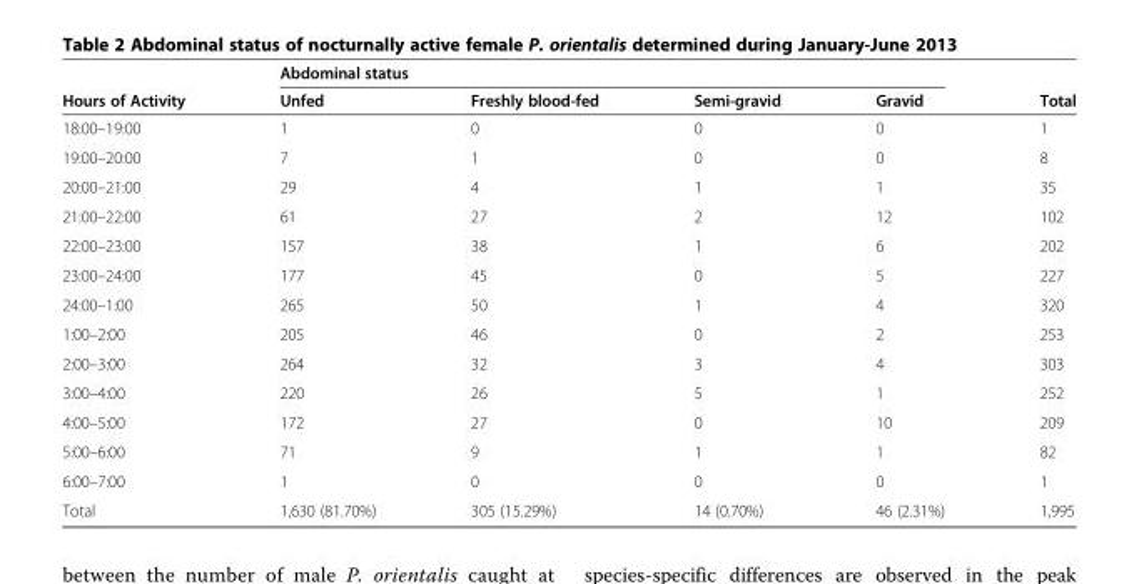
<table><thead><tr><td rowspan="2">Hours of Activity</td><td colspan="4">Abdominal status</td><td rowspan="2">Total</td></tr><tr><td>Unfed</td><td>Freshly blood-fed</td><td>Semi-gravid</td><td>Gravid</td></tr></thead><tbody><tr><td>18:00–19:00</td><td>1</td><td>0</td><td>0</td><td>0</td><td>1</td></tr><tr><td>19:00–20:00</td><td>7</td><td>1</td><td>0</td><td>0</td><td>8</td></tr><tr><td>20:00–21:00</td><td>29</td><td>4</td><td>1</td><td>1</td><td>35</td></tr><tr><td>21:00–22:00</td><td>61</td><td>27</td><td>2</td><td>12</td><td>102</td></tr><tr><td>22:00–23:00</td><td>157</td><td>38</td><td>1</td><td>6</td><td>202</td></tr><tr><td>23:00–24:00</td><td>177</td><td>45</td><td>0</td><td>5</td><td>227</td></tr><tr><td>24:00–1:00</td><td>265</td><td>50</td><td>1</td><td>4</td><td>320</td></tr><tr><td>1:00–2:00</td><td>205</td><td>46</td><td>0</td><td>2</td><td>253</td></tr><tr><td>2:00–3:00</td><td>264</td><td>32</td><td>3</td><td>4</td><td>303</td></tr><tr><td>3:00–4:00</td><td>220</td><td>26</td><td>5</td><td>1</td><td>252</td></tr><tr><td>4:00–5:00</td><td>172</td><td>27</td><td>0</td><td>10</td><td>209</td></tr><tr><td>5:00–6:00</td><td>71</td><td>9</td><td>1</td><td>1</td><td>82</td></tr><tr><td>6:00–7:00</td><td>1</td><td>0</td><td>0</td><td>0</td><td>1</td></tr><tr><td>Total</td><td>1,630 (81.70%)</td><td>305 (15.29%)</td><td>14 (0.70%)</td><td>46 (2.31%)</td><td>1,995</td></tr></tbody></table>